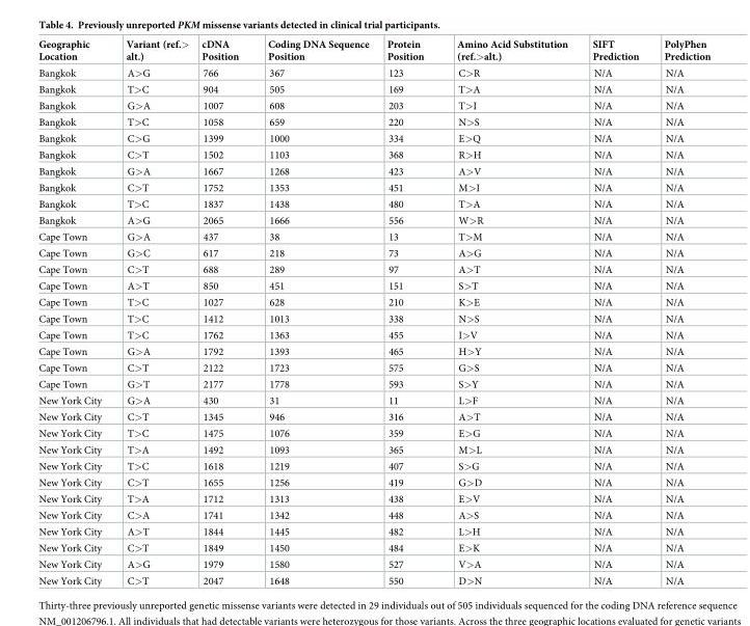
<table><thead><tr><td>Geographic Location</td><td>Variant (ref.&gt; alt.)</td><td>cDNA Position</td><td>Coding DNA Sequence Position</td><td>Protein Position</td><td>Amino Acid Substitution (ref.&gt;alt.)</td><td>SIFT Prediction</td><td>PolyPhen Prediction</td></tr></thead><tbody><tr><td>Bangkok</td><td>A&gt;G</td><td>766</td><td>367</td><td>123</td><td>C&gt;R</td><td>N/A</td><td>N/A</td></tr><tr><td>Bangkok</td><td>T&gt;C</td><td>904</td><td>505</td><td>169</td><td>T&gt;A</td><td>N/A</td><td>N/A</td></tr><tr><td>Bangkok</td><td>G&gt;A</td><td>1007</td><td>608</td><td>203</td><td>T&gt;I</td><td>N/A</td><td>N/A</td></tr><tr><td>Bangkok</td><td>T&gt;C</td><td>1058</td><td>659</td><td>220</td><td>N&gt;S</td><td>N/A</td><td>N/A</td></tr><tr><td>Bangkok</td><td>C&gt;G</td><td>1399</td><td>1000</td><td>334</td><td>E&gt;Q</td><td>N/A</td><td>N/A</td></tr><tr><td>Bangkok</td><td>C&gt;T</td><td>1502</td><td>1103</td><td>368</td><td>R&gt;H</td><td>N/A</td><td>N/A</td></tr><tr><td>Bangkok</td><td>G&gt;A</td><td>1667</td><td>1268</td><td>423</td><td>A&gt;V</td><td>N/A</td><td>N/A</td></tr><tr><td>Bangkok</td><td>C&gt;T</td><td>1752</td><td>1353</td><td>451</td><td>M&gt;I</td><td>N/A</td><td>N/A</td></tr><tr><td>Bangkok</td><td>T&gt;C</td><td>1837</td><td>1438</td><td>480</td><td>T&gt;A</td><td>N/A</td><td>N/A</td></tr><tr><td>Bangkok</td><td>A&gt;G</td><td>2065</td><td>1666</td><td>556</td><td>W&gt;R</td><td>N/A</td><td>N/A</td></tr><tr><td>Cape Town</td><td>G&gt;A</td><td>437</td><td>38</td><td>13</td><td>T&gt;M</td><td>N/A</td><td>N/A</td></tr><tr><td>Cape Town</td><td>G&gt;C</td><td>617</td><td>218</td><td>73</td><td>A&gt;G</td><td>N/A</td><td>N/A</td></tr><tr><td>Cape Town</td><td>C&gt;T</td><td>688</td><td>289</td><td>97</td><td>A&gt;T</td><td>N/A</td><td>N/A</td></tr><tr><td>Cape Town</td><td>A&gt;T</td><td>850</td><td>451</td><td>151</td><td>S&gt;T</td><td>N/A</td><td>N/A</td></tr><tr><td>Cape Town</td><td>T&gt;C</td><td>1027</td><td>628</td><td>210</td><td>K&gt;E</td><td>N/A</td><td>N/A</td></tr><tr><td>Cape Town</td><td>T&gt;C</td><td>1412</td><td>1013</td><td>338</td><td>N&gt;S</td><td>N/A</td><td>N/A</td></tr><tr><td>Cape Town</td><td>T&gt;C</td><td>1762</td><td>1363</td><td>455</td><td>I&gt;V</td><td>N/A</td><td>N/A</td></tr><tr><td>Cape Town</td><td>G&gt;A</td><td>1792</td><td>1393</td><td>465</td><td>H&gt;Y</td><td>N/A</td><td>N/A</td></tr><tr><td>Cape Town</td><td>C&gt;T</td><td>2122</td><td>1723</td><td>575</td><td>G&gt;S</td><td>N/A</td><td>N/A</td></tr><tr><td>Cape Town</td><td>G&gt;T</td><td>2177</td><td>1778</td><td>593</td><td>S&gt;Y</td><td>N/A</td><td>N/A</td></tr><tr><td>New York City</td><td>G&gt;A</td><td>430</td><td>31</td><td>11</td><td>L&gt;F</td><td>N/A</td><td>N/A</td></tr><tr><td>New York City</td><td>C&gt;T</td><td>1345</td><td>946</td><td>316</td><td>A&gt;T</td><td>N/A</td><td>N/A</td></tr><tr><td>New York City</td><td>T&gt;C</td><td>1475</td><td>1076</td><td>359</td><td>E&gt;G</td><td>N/A</td><td>N/A</td></tr><tr><td>New York City</td><td>T&gt;A</td><td>1492</td><td>1093</td><td>365</td><td>M&gt;L</td><td>N/A</td><td>N/A</td></tr><tr><td>New York City</td><td>T&gt;C</td><td>1618</td><td>1219</td><td>407</td><td>S&gt;G</td><td>N/A</td><td>N/A</td></tr><tr><td>New York City</td><td>C&gt;T</td><td>1655</td><td>1256</td><td>419</td><td>G&gt;D</td><td>N/A</td><td>N/A</td></tr><tr><td>New York City</td><td>T&gt;A</td><td>1712</td><td>1313</td><td>438</td><td>E&gt;V</td><td>N/A</td><td>N/A</td></tr><tr><td>New York City</td><td>C&gt;A</td><td>1741</td><td>1342</td><td>448</td><td>A&gt;S</td><td>N/A</td><td>N/A</td></tr><tr><td>New York City</td><td>A&gt;T</td><td>1844</td><td>1445</td><td>482</td><td>L&gt;H</td><td>N/A</td><td>N/A</td></tr><tr><td>New York City</td><td>C&gt;T</td><td>1849</td><td>1450</td><td>484</td><td>E&gt;K</td><td>N/A</td><td>N/A</td></tr><tr><td>New York City</td><td>A&gt;G</td><td>1979</td><td>1580</td><td>527</td><td>V&gt;A</td><td>N/A</td><td>N/A</td></tr><tr><td>New York City</td><td>C&gt;T</td><td>2047</td><td>1648</td><td>550</td><td>D&gt;N</td><td>N/A</td><td>N/A</td></tr></tbody></table>